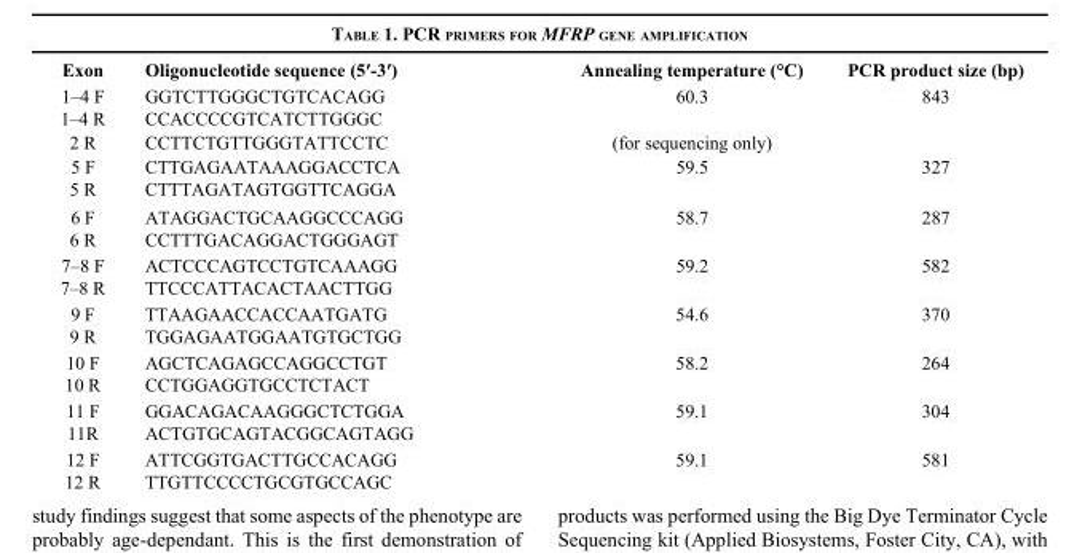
<table><thead><tr><td>Exon</td><td>Oligonucleotide sequence (5′-3′)</td><td>Annealing temperature (°C)</td><td>PCR product size (bp)</td></tr></thead><tbody><tr><td>1–4 F</td><td>GGTCTTGGGCTGTCACAGG</td><td rowspan="2">60.3</td><td rowspan="2">843</td></tr><tr><td>1–4 R</td><td>CCACCCCGTCATCTTGGGC</td></tr><tr><td>2 R</td><td>CCTTCTGTTGGGTATTCCTC</td><td>(for sequencing only)</td><td></td></tr><tr><td>5 F</td><td>CTTGAGAATAAAGGACCTCA</td><td rowspan="2">59.5</td><td rowspan="2">327</td></tr><tr><td>5 R</td><td>CTTTAGATAGTGGTTCAGGA</td></tr><tr><td>6 F</td><td>ATAGGACTGCAAGGCCCAGG</td><td rowspan="2">58.7</td><td rowspan="2">287</td></tr><tr><td>6 R</td><td>CCTTTGACAGGACTGGGAGT</td></tr><tr><td>7–8 F</td><td>ACTCCCAGTCCTGTCAAAGG</td><td rowspan="2">59.2</td><td rowspan="2">582</td></tr><tr><td>7–8 R</td><td>TTCCCATTACACTAACTTGG</td></tr><tr><td>9 F</td><td>TTAAGAACCACCAATGATG</td><td rowspan="2">54.6</td><td rowspan="2">370</td></tr><tr><td>9 R</td><td>TGGAGAATGGAATGTGCTGG</td></tr><tr><td>10 F</td><td>AGCTCAGAGCCAGGCCTGT</td><td rowspan="2">58.2</td><td rowspan="2">264</td></tr><tr><td>10 R</td><td>CCTGGAGGTGCCTCTACT</td></tr><tr><td>11 F</td><td>GGACAGACAAGGGCTCTGGA</td><td rowspan="2">59.1</td><td rowspan="2">304</td></tr><tr><td>11R</td><td>ACTGTGCAGTACGGCAGTAGG</td></tr><tr><td>12 F</td><td>ATTCGGTGACTTGCCACAGG</td><td rowspan="2">59.1</td><td rowspan="2">581</td></tr><tr><td>12 R</td><td>TTGTTCCCCTGCGTGCCAGC</td></tr></tbody></table>